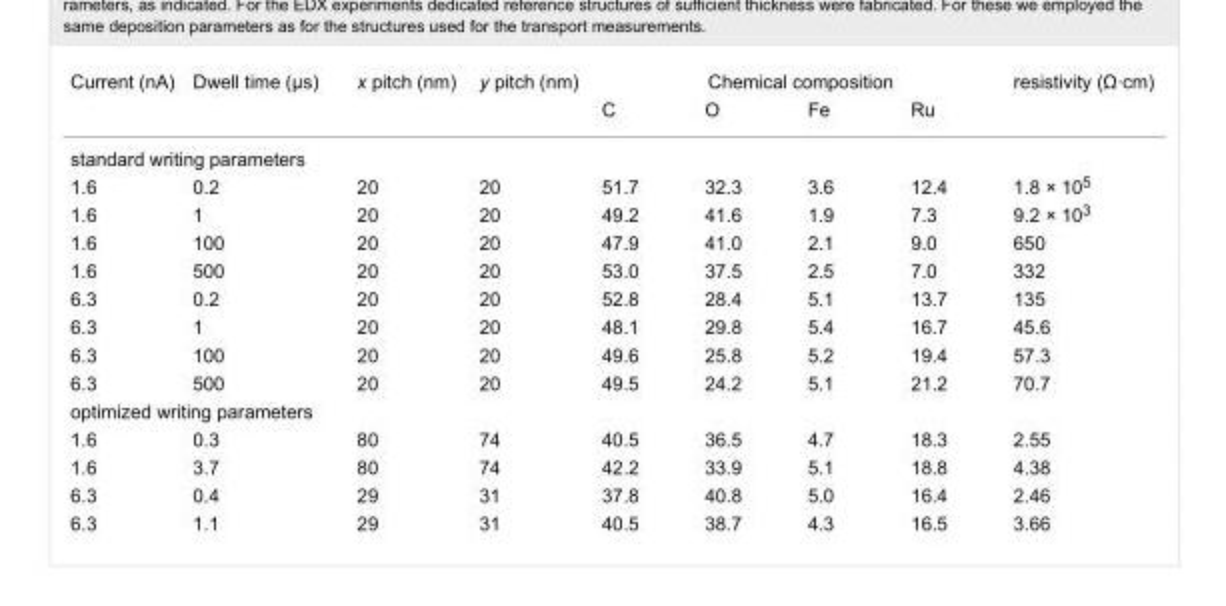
<table><tbody><tr><td>Current (nA)</td><td>Dwell time (µs)</td><td>x pitch (nm)</td><td>y pitch (nm)</td><td colspan="4">Chemical composition</td><td>resistivity (Ω·cm)</td></tr><tr><td colspan="4"></td><td>C</td><td>O</td><td>Fe</td><td>Ru</td><td></td></tr><tr><td colspan="9">standard writing parameters</td></tr><tr><td>1.6</td><td>0.2</td><td>20</td><td>20</td><td>51.7</td><td>32.3</td><td>3.6</td><td>12.4</td><td>1.8 × 10<sup>5</sup></td></tr><tr><td>1.6</td><td>1</td><td>20</td><td>20</td><td>49.2</td><td>41.6</td><td>1.9</td><td>7.3</td><td>9.2 × 10<sup>3</sup></td></tr><tr><td>1.6</td><td>100</td><td>20</td><td>20</td><td>47.9</td><td>41.0</td><td>2.1</td><td>9.0</td><td>650</td></tr><tr><td>1.6</td><td>500</td><td>20</td><td>20</td><td>53.0</td><td>37.5</td><td>2.5</td><td>7.0</td><td>332</td></tr><tr><td>6.3</td><td>0.2</td><td>20</td><td>20</td><td>52.8</td><td>28.4</td><td>5.1</td><td>13.7</td><td>135</td></tr><tr><td>6.3</td><td>1</td><td>20</td><td>20</td><td>48.1</td><td>29.8</td><td>5.4</td><td>16.7</td><td>45.6</td></tr><tr><td>6.3</td><td>100</td><td>20</td><td>20</td><td>49.6</td><td>25.8</td><td>5.2</td><td>19.4</td><td>57.3</td></tr><tr><td>6.3</td><td>500</td><td>20</td><td>20</td><td>49.5</td><td>24.2</td><td>5.1</td><td>21.2</td><td>70.7</td></tr><tr><td colspan="9">optimized writing parameters</td></tr><tr><td>1.6</td><td>0.3</td><td>80</td><td>74</td><td>40.5</td><td>36.5</td><td>4.7</td><td>18.3</td><td>2.55</td></tr><tr><td>1.6</td><td>3.7</td><td>80</td><td>74</td><td>42.2</td><td>33.9</td><td>5.1</td><td>18.8</td><td>4.38</td></tr><tr><td>6.3</td><td>0.4</td><td>29</td><td>31</td><td>37.8</td><td>40.8</td><td>5.0</td><td>16.4</td><td>2.46</td></tr><tr><td>6.3</td><td>1.1</td><td>29</td><td>31</td><td>40.5</td><td>38.7</td><td>4.3</td><td>16.5</td><td>3.66</td></tr></tbody></table>